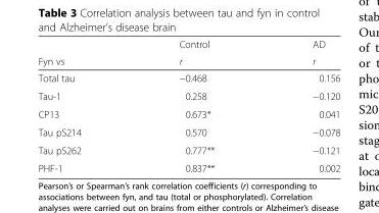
<table><thead><tr><td rowspan="2">Fyn vs</td><td rowspan="2">Control r</td><td rowspan="2">AD r</td></tr><tr></tr></thead><tbody><tr><td>Total tau</td><td>−0.468</td><td>0.156</td></tr><tr><td>Tau-1</td><td>0.258</td><td>−0.120</td></tr><tr><td>CP13</td><td>0.673*</td><td>0.041</td></tr><tr><td>Tau pS214</td><td>0.570</td><td>−0.078</td></tr><tr><td>Tau pS262</td><td>0.777**</td><td>−0.121</td></tr><tr><td>PHF-1</td><td>0.837**</td><td>0.002</td></tr></tbody></table>